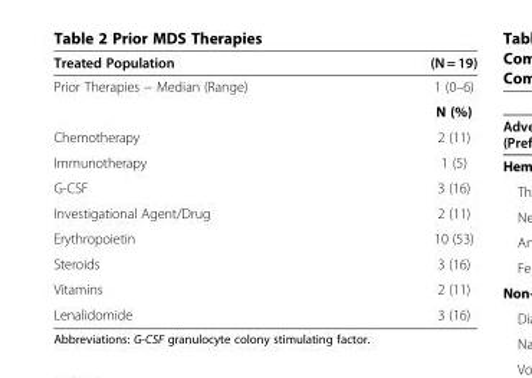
<table><thead><tr><td>Treated Population</td><td>(N = 19)</td></tr></thead><tbody><tr><td rowspan="2">Prior Therapies − Median (Range)</td><td>1 (0–6)</td></tr><tr><td>N (%)</td></tr><tr><td>Chemotherapy</td><td>2 (11)</td></tr><tr><td>Immunotherapy</td><td>1 (5)</td></tr><tr><td>G-CSF</td><td>3 (16)</td></tr><tr><td>Investigational Agent/Drug</td><td>2 (11)</td></tr><tr><td>Erythropoietin</td><td>10 (53)</td></tr><tr><td>Steroids</td><td>3 (16)</td></tr><tr><td>Vitamins</td><td>2 (11)</td></tr><tr><td>Lenalidomide</td><td>3 (16)</td></tr></tbody></table>